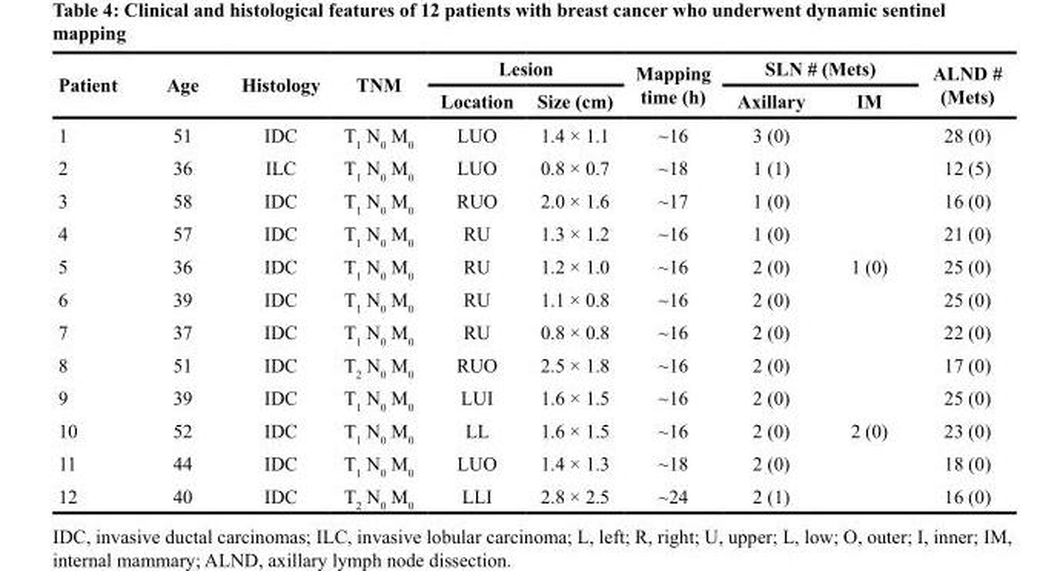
<table><thead><tr><td rowspan="2">Patient</td><td rowspan="2">Age</td><td rowspan="2">Histology</td><td rowspan="2">TNM</td><td colspan="2">Lesion</td><td rowspan="2">Mapping time (h)</td><td colspan="2">SLN # (Mets)</td><td rowspan="2">ALND # (Mets)</td></tr><tr><td>Location</td><td>Size (cm)</td><td>Axillary</td><td>IM</td></tr></thead><tbody><tr><td>1</td><td>51</td><td>IDC</td><td>T<sub>1</sub> N<sub>0</sub> M<sub>0</sub></td><td>LUO</td><td>1.4 × 1.1</td><td>~16</td><td>3 (0)</td><td></td><td>28 (0)</td></tr><tr><td>2</td><td>36</td><td>ILC</td><td>T<sub>1</sub> N<sub>0</sub> M<sub>0</sub></td><td>LUO</td><td>0.8 × 0.7</td><td>~18</td><td>1 (1)</td><td></td><td>12 (5)</td></tr><tr><td>3</td><td>58</td><td>IDC</td><td>T<sub>1</sub> N<sub>0</sub> M<sub>0</sub></td><td>RUO</td><td>2.0 × 1.6</td><td>~17</td><td>1 (0)</td><td></td><td>16 (0)</td></tr><tr><td>4</td><td>57</td><td>IDC</td><td>T<sub>1</sub> N<sub>0</sub> M<sub>0</sub></td><td>RU</td><td>1.3 × 1.2</td><td>~16</td><td>1 (0)</td><td></td><td>21 (0)</td></tr><tr><td>5</td><td>36</td><td>IDC</td><td>T<sub>1</sub> N<sub>0</sub> M<sub>0</sub></td><td>RU</td><td>1.2 × 1.0</td><td>~16</td><td>2 (0)</td><td>1 (0)</td><td>25 (0)</td></tr><tr><td>6</td><td>39</td><td>IDC</td><td>T<sub>1</sub> N<sub>0</sub> M<sub>0</sub></td><td>RU</td><td>1.1 × 0.8</td><td>~16</td><td>2 (0)</td><td></td><td>25 (0)</td></tr><tr><td>7</td><td>37</td><td>IDC</td><td>T<sub>1</sub> N<sub>0</sub> M<sub>0</sub></td><td>RU</td><td>0.8 × 0.8</td><td>~16</td><td>2 (0)</td><td></td><td>22 (0)</td></tr><tr><td>8</td><td>51</td><td>IDC</td><td>T<sub>2</sub> N<sub>0</sub> M<sub>0</sub></td><td>RUO</td><td>2.5 × 1.8</td><td>~16</td><td>2 (0)</td><td></td><td>17 (0)</td></tr><tr><td>9</td><td>39</td><td>IDC</td><td>T<sub>1</sub> N<sub>0</sub> M<sub>0</sub></td><td>LUI</td><td>1.6 × 1.5</td><td>~16</td><td>2 (0)</td><td></td><td>25 (0)</td></tr><tr><td>10</td><td>52</td><td>IDC</td><td>T<sub>1</sub> N<sub>0</sub> M<sub>0</sub></td><td>LL</td><td>1.6 × 1.5</td><td>~16</td><td>2 (0)</td><td>2 (0)</td><td>23 (0)</td></tr><tr><td>11</td><td>44</td><td>IDC</td><td>T<sub>1</sub> N<sub>0</sub> M<sub>0</sub></td><td>LUO</td><td>1.4 × 1.3</td><td>~18</td><td>2 (0)</td><td></td><td>18 (0)</td></tr><tr><td>12</td><td>40</td><td>IDC</td><td>T<sub>2</sub> N<sub>0</sub> M<sub>0</sub></td><td>LLI</td><td>2.8 × 2.5</td><td>~24</td><td>2 (1)</td><td></td><td>16 (0)</td></tr></tbody></table>